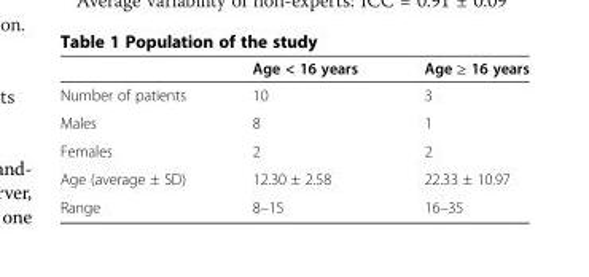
<table><thead><tr><td></td><td>Age &lt; 16 years</td><td>Age ≥ 16 years</td></tr></thead><tbody><tr><td>Number of patients</td><td>10</td><td>3</td></tr><tr><td>Males</td><td>8</td><td>1</td></tr><tr><td>Females</td><td>2</td><td>2</td></tr><tr><td>Age (average ± SD)</td><td>12.30 ± 2.58</td><td>22.33 ± 10.97</td></tr><tr><td>Range</td><td>8–15</td><td>16–35</td></tr></tbody></table>